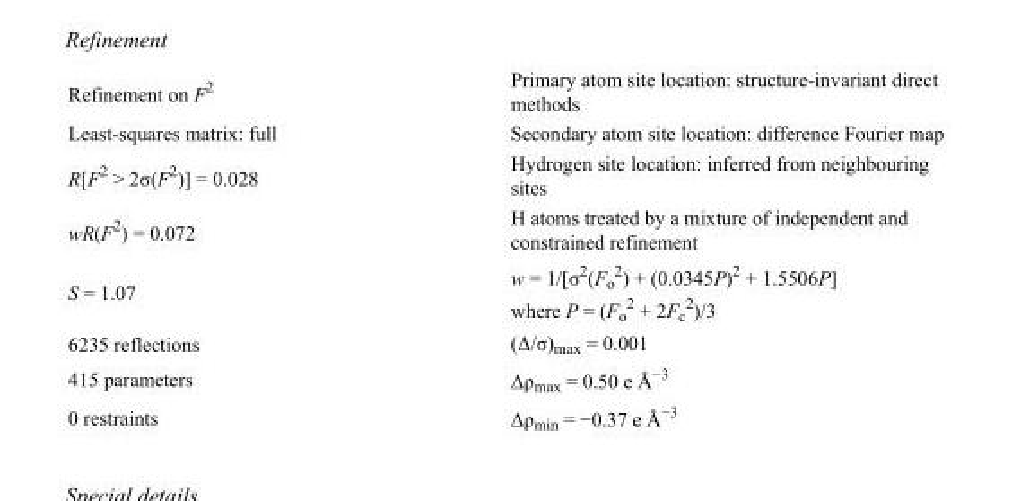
<table><tbody><tr><td>Refinement on F<sup>2</sup></td><td>Primary atom site location: structure-invariant direct methods</td></tr><tr><td>Least-squares matrix: full</td><td>Secondary atom site location: difference Fourier map</td></tr><tr><td>R[F<sup>2</sup> &gt; 2σ(F<sup>2</sup>)] = 0.028</td><td>Hydrogen site location: inferred from neighbouring sites</td></tr><tr><td>wR(F<sup>2</sup>) = 0.072</td><td>H atoms treated by a mixture of independent and constrained refinement</td></tr><tr><td>S = 1.07</td><td>w = 1/[σ<sup>2</sup>(F<sub>o</sub> <sup>2</sup>) + (0.0345P)<sup>2</sup> + 1.5506P] where P = (F<sub>o</sub> <sup>2</sup> + 2F<sub>c</sub> <sup>2</sup>)/3</td></tr><tr><td>6235 reflections</td><td>(Δ/σ)<sub>max</sub> = 0.001</td></tr><tr><td>415 parameters</td><td>Δρ<sub>max</sub> = 0.50 e Å<sup>−3</sup></td></tr><tr><td>0 restraints</td><td>Δρ<sub>min</sub> = −0.37 e Å<sup>−3</sup></td></tr></tbody></table>